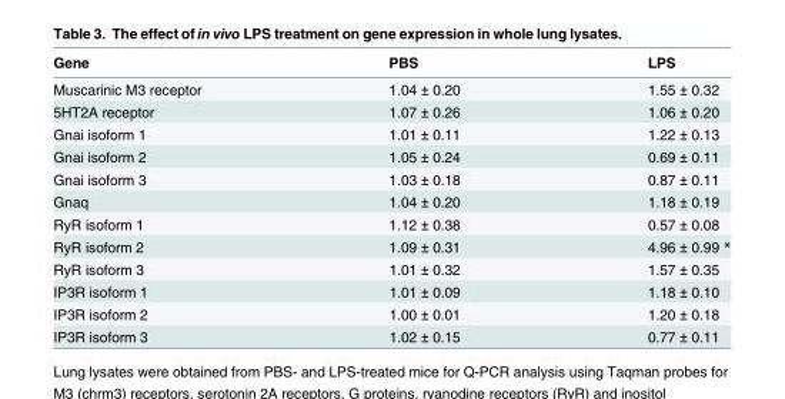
<table><thead><tr><td>Gene</td><td>PBS</td><td>LPS</td></tr></thead><tbody><tr><td>Muscarinic M3 receptor</td><td>1.04 ± 0.20</td><td>1.55 ± 0.32</td></tr><tr><td>5HT2A receptor</td><td>1.07 ± 0.26</td><td>1.06 ± 0.20</td></tr><tr><td>Gnai isoform 1</td><td>1.01 ± 0.11</td><td>1.22 ± 0.13</td></tr><tr><td>Gnai isoform 2</td><td>1.05 ± 0.24</td><td>0.69 ± 0.11</td></tr><tr><td>Gnai isoform 3</td><td>1.03 ± 0.18</td><td>0.87 ± 0.11</td></tr><tr><td>Gnaq</td><td>1.04 ± 0.20</td><td>1.18 ± 0.19</td></tr><tr><td>RyR isoform 1</td><td>1.12 ± 0.38</td><td>0.57 ± 0.08</td></tr><tr><td>RyR isoform 2</td><td>1.09 ± 0.31</td><td>4.96 ± 0.99 *</td></tr><tr><td>RyR isoform 3</td><td>1.01 ± 0.32</td><td>1.57 ± 0.35</td></tr><tr><td>IP3R isoform 1</td><td>1.01 ± 0.09</td><td>1.18 ± 0.10</td></tr><tr><td>IP3R isoform 2</td><td>1.00 ± 0.01</td><td>1.20 ± 0.18</td></tr><tr><td>IP3R isoform 3</td><td>1.02 ± 0.15</td><td>0.77 ± 0.11</td></tr></tbody></table>